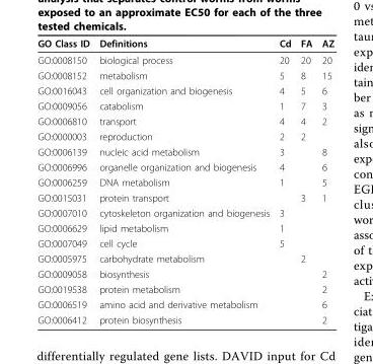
<table><thead><tr><td>GO Class ID</td><td>Definitions</td><td>Cd</td><td>FA</td><td>AZ</td></tr></thead><tbody><tr><td>GO:0008150</td><td>biological process</td><td>20</td><td>20</td><td>20</td></tr><tr><td>GO:0008152</td><td>metabolism</td><td>5</td><td>8</td><td>15</td></tr><tr><td>GO:0016043</td><td>cell organization and biogenesis</td><td>4</td><td>5</td><td>6</td></tr><tr><td>GO:0009056</td><td>catabolism</td><td>1</td><td>7</td><td>3</td></tr><tr><td>GO:0006810</td><td>transport</td><td>4</td><td>4</td><td>2</td></tr><tr><td>GO:0000003</td><td>reproduction</td><td>2</td><td>2</td><td></td></tr><tr><td>GO:0006139</td><td>nucleic acid metabolism</td><td>3</td><td></td><td>8</td></tr><tr><td>GO:0006996</td><td>organelle organization and biogenesis</td><td>4</td><td></td><td>6</td></tr><tr><td>GO:0006259</td><td>DNA metabolism</td><td>1</td><td></td><td>5</td></tr><tr><td>GO:0015031</td><td>protein transport</td><td></td><td>3</td><td>1</td></tr><tr><td>GO:0007010</td><td>cytoskeleton organization and biogenesis</td><td>3</td><td></td><td></td></tr><tr><td>GO:0006629</td><td>lipid metabolism</td><td>1</td><td></td><td></td></tr><tr><td>GO:0007049</td><td>cell cycle</td><td>5</td><td></td><td></td></tr><tr><td>GO:0005975</td><td>carbohydrate metabolism</td><td></td><td>2</td><td></td></tr><tr><td>GO:0009058</td><td>biosynthesis</td><td></td><td></td><td>2</td></tr><tr><td>GO:0019538</td><td>protein metabolism</td><td></td><td></td><td>2</td></tr><tr><td>GO:0006519</td><td>amino acid and derivative metabolism</td><td></td><td></td><td>6</td></tr><tr><td>GO:0006412</td><td>protein biosynthesis</td><td></td><td></td><td>2</td></tr></tbody></table>